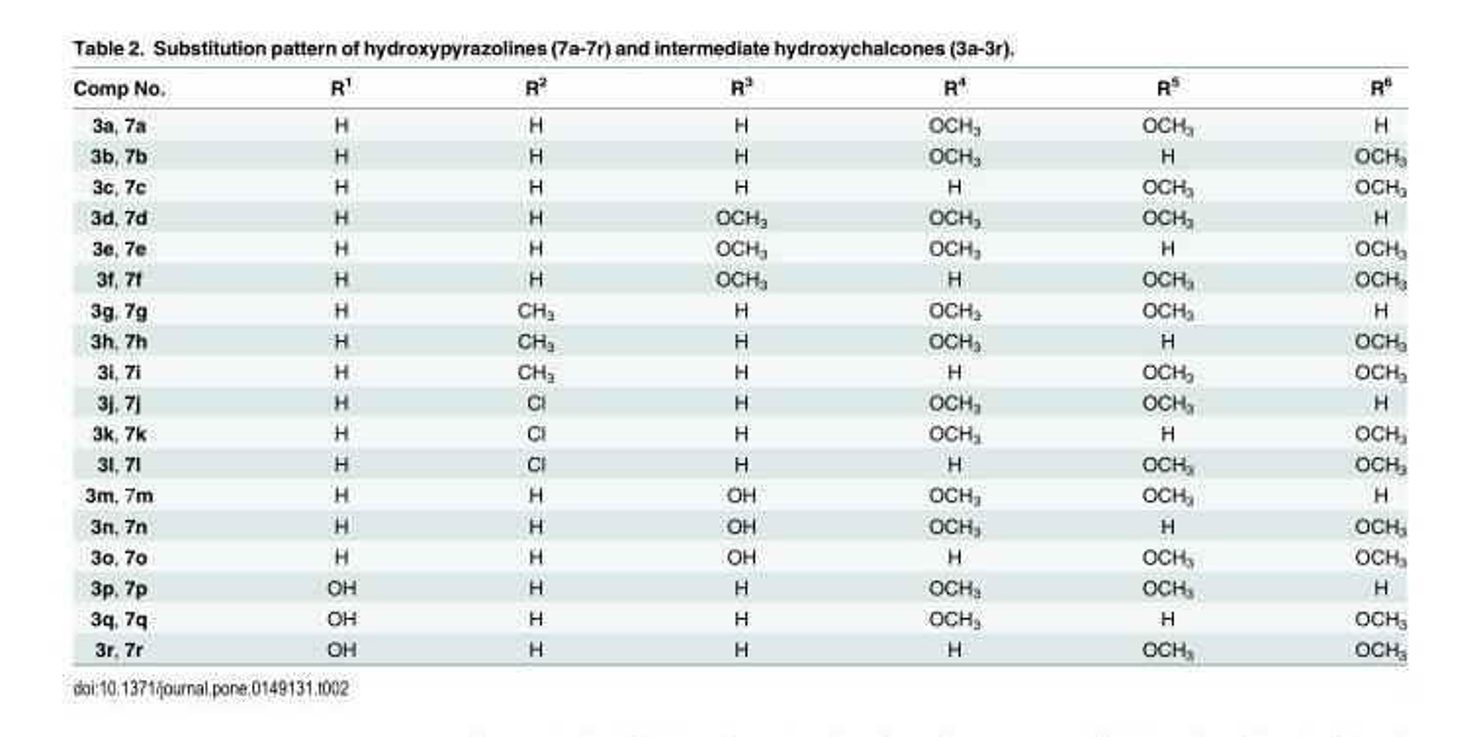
<table><thead><tr><td>Comp No.</td><td>R<sup>1</sup></td><td>R<sup>2</sup></td><td>R<sup>3</sup></td><td>R<sup>4</sup></td><td>R<sup>5</sup></td><td>R<sup>6</sup></td></tr></thead><tbody><tr><td>3a, 7a</td><td>H</td><td>H</td><td>H</td><td>OCH<sub>3</sub></td><td>OCH<sub>3</sub></td><td>H</td></tr><tr><td>3b, 7b</td><td>H</td><td>H</td><td>H</td><td>OCH<sub>3</sub></td><td>H</td><td>OCH<sub>3</sub></td></tr><tr><td>3c, 7c</td><td>H</td><td>H</td><td>H</td><td>H</td><td>OCH<sub>3</sub></td><td>OCH<sub>3</sub></td></tr><tr><td>3d, 7d</td><td>H</td><td>H</td><td>OCH<sub>3</sub></td><td>OCH<sub>3</sub></td><td>OCH<sub>3</sub></td><td>H</td></tr><tr><td>3e, 7e</td><td>H</td><td>H</td><td>OCH<sub>3</sub></td><td>OCH<sub>3</sub></td><td>H</td><td>OCH<sub>3</sub></td></tr><tr><td>3f, 7f</td><td>H</td><td>H</td><td>OCH<sub>3</sub></td><td>H</td><td>OCH<sub>3</sub></td><td>OCH<sub>3</sub></td></tr><tr><td>3g, 7g</td><td>H</td><td>CH<sub>3</sub></td><td>H</td><td>OCH<sub>3</sub></td><td>OCH<sub>3</sub></td><td>H</td></tr><tr><td>3h, 7h</td><td>H</td><td>CH<sub>3</sub></td><td>H</td><td>OCH<sub>3</sub></td><td>H</td><td>OCH<sub>3</sub></td></tr><tr><td>3i, 7i</td><td>H</td><td>CH<sub>3</sub></td><td>H</td><td>H</td><td>OCH<sub>3</sub></td><td>OCH<sub>3</sub></td></tr><tr><td>3j, 7j</td><td>H</td><td>Cl</td><td>H</td><td>OCH<sub>3</sub></td><td>OCH<sub>3</sub></td><td>H</td></tr><tr><td>3k, 7k</td><td>H</td><td>Cl</td><td>H</td><td>OCH<sub>3</sub></td><td>H</td><td>OCH<sub>3</sub></td></tr><tr><td>3l, 7l</td><td>H</td><td>Cl</td><td>H</td><td>H</td><td>OCH<sub>3</sub></td><td>OCH<sub>3</sub></td></tr><tr><td>3m, 7m</td><td>H</td><td>H</td><td>OH</td><td>OCH<sub>3</sub></td><td>OCH<sub>3</sub></td><td>H</td></tr><tr><td>3n, 7n</td><td>H</td><td>H</td><td>OH</td><td>OCH<sub>3</sub></td><td>H</td><td>OCH<sub>3</sub></td></tr><tr><td>3o, 7o</td><td>H</td><td>H</td><td>OH</td><td>H</td><td>OCH<sub>3</sub></td><td>OCH<sub>3</sub></td></tr><tr><td>3p, 7p</td><td>OH</td><td>H</td><td>H</td><td>OCH<sub>3</sub></td><td>OCH<sub>3</sub></td><td>H</td></tr><tr><td>3q, 7q</td><td>OH</td><td>H</td><td>H</td><td>OCH<sub>3</sub></td><td>H</td><td>OCH<sub>3</sub></td></tr><tr><td>3r, 7r</td><td>OH</td><td>H</td><td>H</td><td>H</td><td>OCH<sub>3</sub></td><td>OCH<sub>3</sub></td></tr></tbody></table>